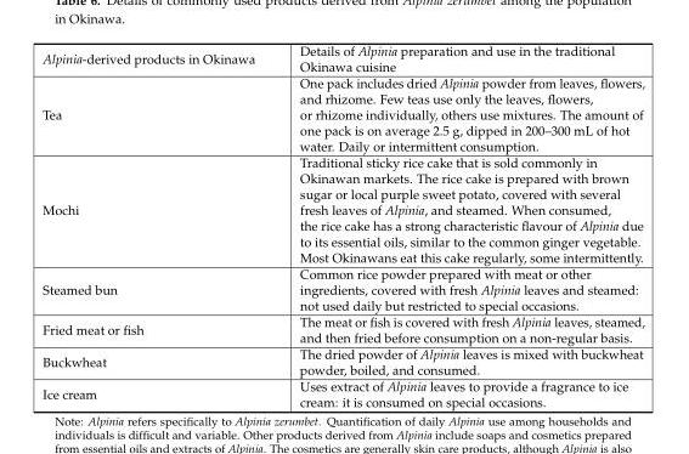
<table><tbody><tr><td>Alpinia-derived products in Okinawa</td><td>Details of Alpinia preparation and use in the traditional Okinawa cuisine</td></tr><tr><td>Tea</td><td>One pack includes dried Alpinia powder from leaves, flowers, and rhizome. Few teas use only the leaves, flowers, or rhizome individually, others use mixtures. The amount of one pack is on average 2.5 g, dipped in 200–300 mL of hot water. Daily or intermittent consumption.</td></tr><tr><td>Mochi</td><td>Traditional sticky rice cake that is sold commonly in Okinawan markets. The rice cake is prepared with brown sugar or local purple sweet potato, covered with several fresh leaves of Alpinia, and steamed. When consumed, the rice cake has a strong characteristic flavour of Alpinia due to its essential oils, similar to the common ginger vegetable. Most Okinawans eat this cake regularly, some intermittently.</td></tr><tr><td>Steamed bun</td><td>Common rice powder prepared with meat or other ingredients, covered with fresh Alpinia leaves and steamed: not used daily but restricted to special occasions.</td></tr><tr><td>Fried meat or fish</td><td>The meat or fish is covered with fresh Alpinia leaves, steamed, and then fried before consumption on a non-regular basis.</td></tr><tr><td>Buckwheat</td><td>The dried powder of Alpinia leaves is mixed with buckwheat powder, boiled, and consumed.</td></tr><tr><td>Ice cream</td><td>Uses extract of Alpinia leaves to provide a fragrance to ice cream: it is consumed on special occasions.</td></tr></tbody></table>